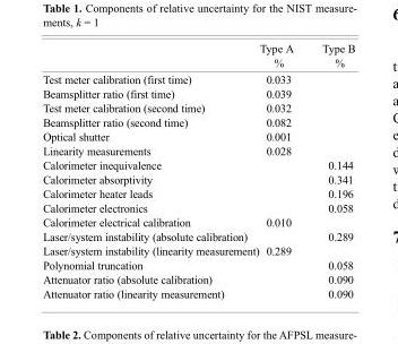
<table><thead><tr><td></td><td>Type A %</td><td>Type B %</td></tr></thead><tbody><tr><td>Test meter calibration (first time)</td><td>0.033</td><td></td></tr><tr><td>Beamsplitter ratio (first time)</td><td>0.039</td><td></td></tr><tr><td>Test meter calibration (second time)</td><td>0.032</td><td></td></tr><tr><td>Beamsplitter ratio (second time)</td><td>0.082</td><td></td></tr><tr><td>Optical shutter</td><td>0.001</td><td></td></tr><tr><td>Linearity measurements</td><td>0.028</td><td></td></tr><tr><td>Calorimeter inequivalence</td><td></td><td>0.144</td></tr><tr><td>Calorimeter absorptivity</td><td></td><td>0.341</td></tr><tr><td>Calorimeter heater leads</td><td></td><td>0.196</td></tr><tr><td>Calorimeter electronics</td><td></td><td>0.058</td></tr><tr><td>Calorimeter electrical calibration</td><td>0.010</td><td></td></tr><tr><td>Laser/system instability (absolute calibration)</td><td></td><td>0.289</td></tr><tr><td>Laser/system instability (linearity measurement)</td><td>0.289</td><td></td></tr><tr><td>Polynomial truncation</td><td></td><td>0.058</td></tr><tr><td>Attenuator ratio (absolute calibration)</td><td></td><td>0.090</td></tr><tr><td>Attenuator ratio (linearity measurement)</td><td></td><td>0.090</td></tr></tbody></table>